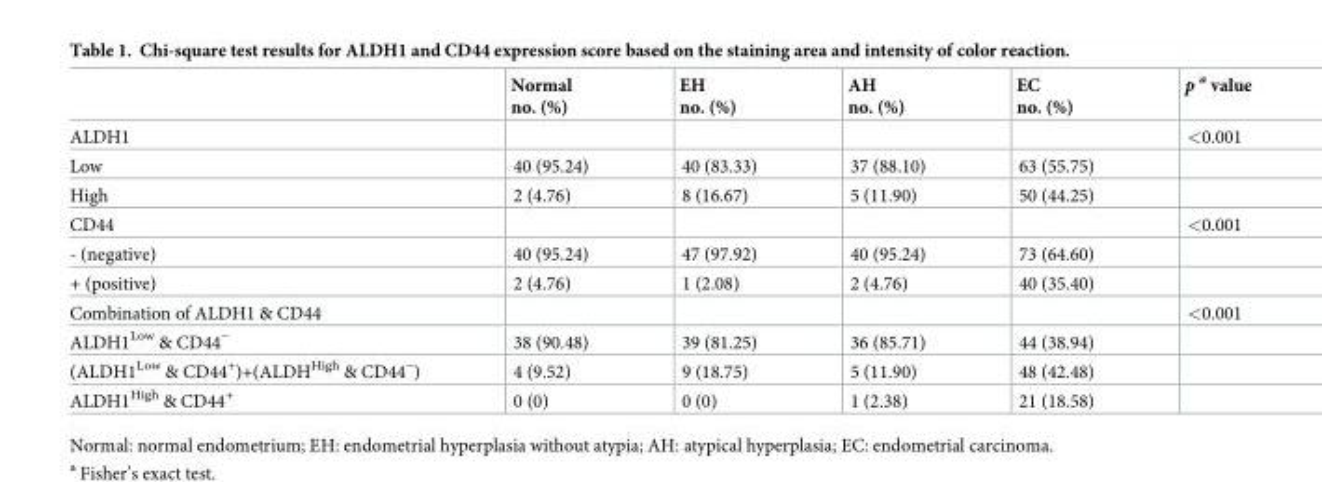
<table><thead><tr><td></td><td>Normal no. (%)</td><td>EH no. (%)</td><td>AH no. (%)</td><td>EC no. (%)</td><td>p <sup>a</sup> value</td></tr></thead><tbody><tr><td>ALDH1</td><td></td><td></td><td></td><td></td><td>&lt;0.001</td></tr><tr><td>Low</td><td>40 (95.24)</td><td>40 (83.33)</td><td>37 (88.10)</td><td>63 (55.75)</td><td></td></tr><tr><td>High</td><td>2 (4.76)</td><td>8 (16.67)</td><td>5 (11.90)</td><td>50 (44.25)</td><td></td></tr><tr><td>CD44</td><td></td><td></td><td></td><td></td><td>&lt;0.001</td></tr><tr><td>- (negative)</td><td>40 (95.24)</td><td>47 (97.92)</td><td>40 (95.24)</td><td>73 (64.60)</td><td></td></tr><tr><td>+ (positive)</td><td>2 (4.76)</td><td>1 (2.08)</td><td>2 (4.76)</td><td>40 (35.40)</td><td></td></tr><tr><td>Combination of ALDH1 &amp; CD44</td><td></td><td></td><td></td><td></td><td>&lt;0.001</td></tr><tr><td>ALDH1<sup>Low</sup> &amp; CD44<sup>−</sup></td><td>38 (90.48)</td><td>39 (81.25)</td><td>36 (85.71)</td><td>44 (38.94)</td><td></td></tr><tr><td>(ALDH1<sup>Low</sup> &amp; CD44<sup>+</sup>)+(ALDH<sup>High</sup> &amp; CD44<sup>−</sup>)</td><td>4 (9.52)</td><td>9 (18.75)</td><td>5 (11.90)</td><td>48 (42.48)</td><td></td></tr><tr><td>ALDH1<sup>High</sup> &amp; CD44<sup>+</sup></td><td>0 (0)</td><td>0 (0)</td><td>1 (2.38)</td><td>21 (18.58)</td><td></td></tr></tbody></table>